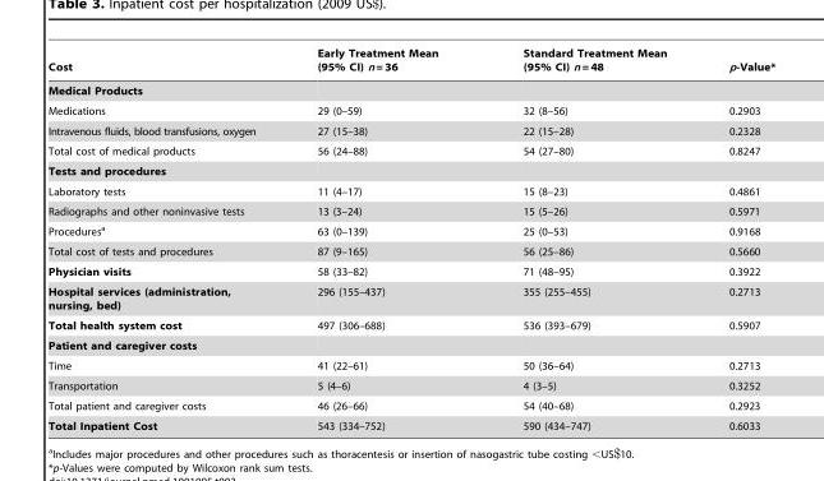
<table><thead><tr><td>Cost</td><td>Early Treatment Mean (95% CI) n = 36</td><td>Standard Treatment Mean (95% CI) n = 48</td><td>p-Value*</td></tr></thead><tbody><tr><td colspan="4">Medical Products</td></tr><tr><td>Medications</td><td>29 (0–59)</td><td>32 (8–56)</td><td>0.2903</td></tr><tr><td>Intravenous fluids, blood transfusions, oxygen</td><td>27 (15–38)</td><td>22 (15–28)</td><td>0.2328</td></tr><tr><td>Total cost of medical products</td><td>56 (24–88)</td><td>54 (27–80)</td><td>0.8247</td></tr><tr><td colspan="4">Tests and procedures</td></tr><tr><td>Laboratory tests</td><td>11 (4–17)</td><td>15 (8–23)</td><td>0.4861</td></tr><tr><td>Radiographs and other noninvasive tests</td><td>13 (3–24)</td><td>15 (5–26)</td><td>0.5971</td></tr><tr><td>Procedures<sup>a</sup></td><td>63 (0–139)</td><td>25 (0–53)</td><td>0.9168</td></tr><tr><td>Total cost of tests and procedures</td><td>87 (9–165)</td><td>56 (25–86)</td><td>0.5660</td></tr><tr><td>Physician visits</td><td>58 (33–82)</td><td>71 (48–95)</td><td>0.3922</td></tr><tr><td>Hospital services (administration, nursing, bed)</td><td>296 (155–437)</td><td>355 (255–455)</td><td>0.2713</td></tr><tr><td>Total health system cost</td><td>497 (306–688)</td><td>536 (393–679)</td><td>0.5907</td></tr><tr><td colspan="4">Patient and caregiver costs</td></tr><tr><td>Time</td><td>41 (22–61)</td><td>50 (36–64)</td><td>0.2713</td></tr><tr><td>Transportation</td><td>5 (4–6)</td><td>4 (3–5)</td><td>0.3252</td></tr><tr><td>Total patient and caregiver costs</td><td>46 (26–66)</td><td>54 (40–68)</td><td>0.2923</td></tr><tr><td>Total Inpatient Cost</td><td>543 (334–752)</td><td>590 (434–747)</td><td>0.6033</td></tr></tbody></table>